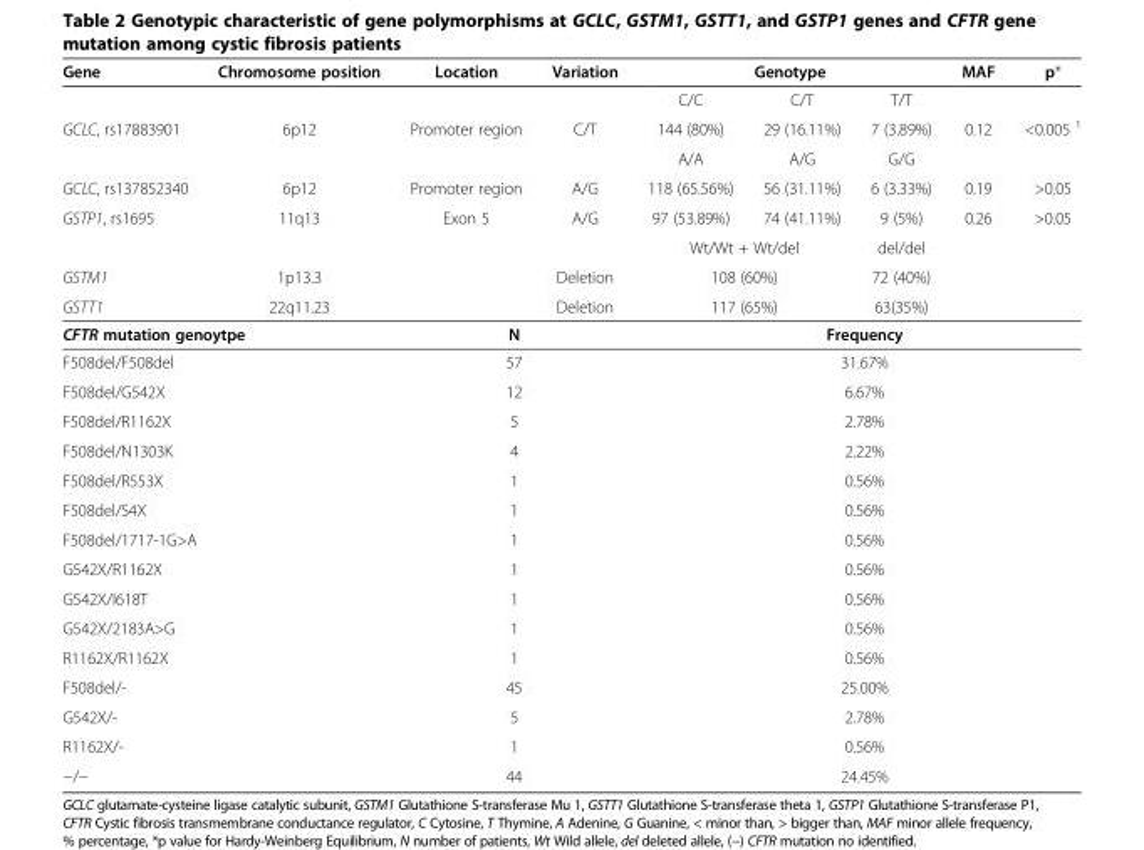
<table><thead><tr><td rowspan="2">Gene</td><td rowspan="2">Chromosome position</td><td rowspan="2">Location</td><td rowspan="2">Variation</td><td colspan="3">Genotype</td><td rowspan="2">MAF</td><td rowspan="2">p*</td></tr><tr><td>C/C</td><td>C/T</td><td>T/T</td></tr></thead><tbody><tr><td rowspan="2">GCLC, rs17883901</td><td>6p12</td><td>Promoter region</td><td>C/T</td><td>144 (80%)</td><td>29 (16.11%)</td><td>7 (3.89%)</td><td>0.12</td><td>&lt;0.005 <sup>1</sup></td></tr><tr><td></td><td></td><td></td><td>A/A</td><td>A/G</td><td>G/G</td><td></td><td></td></tr><tr><td>GCLC, rs137852340</td><td>6p12</td><td>Promoter region</td><td>A/G</td><td>118 (65.56%)</td><td>56 (31.11%)</td><td>6 (3.33%)</td><td>0.19</td><td>&gt;0.05</td></tr><tr><td rowspan="2">GSTP1, rs1695</td><td>11q13</td><td>Exon 5</td><td>A/G</td><td>97 (53.89%)</td><td>74 (41.11%)</td><td>9 (5%)</td><td>0.26</td><td>&gt;0.05</td></tr><tr><td></td><td></td><td></td><td colspan="2">Wt/Wt + Wt/del</td><td>del/del</td><td></td><td></td></tr><tr><td>GSTM1</td><td>1p13.3</td><td></td><td>Deletion</td><td colspan="2">108 (60%)</td><td>72 (40%)</td><td></td><td></td></tr><tr><td>GSTT1</td><td>22q11.23</td><td></td><td>Deletion</td><td colspan="2">117 (65%)</td><td>63(35%)</td><td></td><td></td></tr><tr><td colspan="2">CFTR mutation genoytpe</td><td colspan="2">N</td><td colspan="5">Frequency</td></tr><tr><td colspan="2">F508del/F508del</td><td colspan="2">57</td><td colspan="5">31.67%</td></tr><tr><td colspan="2">F508del/G542X</td><td colspan="2">12</td><td colspan="5">6.67%</td></tr><tr><td colspan="2">F508del/R1162X</td><td colspan="2">5</td><td colspan="5">2.78%</td></tr><tr><td colspan="2">F508del/N1303K</td><td colspan="2">4</td><td colspan="5">2.22%</td></tr><tr><td colspan="2">F508del/R553X</td><td colspan="2">1</td><td colspan="5">0.56%</td></tr><tr><td colspan="2">F508del/S4X</td><td colspan="2">1</td><td colspan="5">0.56%</td></tr><tr><td colspan="2">F508del/1717-1G&gt;A</td><td colspan="2">1</td><td colspan="5">0.56%</td></tr><tr><td colspan="2">G542X/R1162X</td><td colspan="2">1</td><td colspan="5">0.56%</td></tr><tr><td colspan="2">G542X/I618T</td><td colspan="2">1</td><td colspan="5">0.56%</td></tr><tr><td colspan="2">G542X/2183A&gt;G</td><td colspan="2">1</td><td colspan="5">0.56%</td></tr><tr><td colspan="2">R1162X/R1162X</td><td colspan="2">1</td><td colspan="5">0.56%</td></tr><tr><td colspan="2">F508del/-</td><td colspan="2">45</td><td colspan="5">25.00%</td></tr><tr><td colspan="2">G542X/-</td><td colspan="2">5</td><td colspan="5">2.78%</td></tr><tr><td colspan="2">R1162X/-</td><td colspan="2">1</td><td colspan="5">0.56%</td></tr><tr><td colspan="2">−/−</td><td colspan="2">44</td><td colspan="5">24.45%</td></tr></tbody></table>